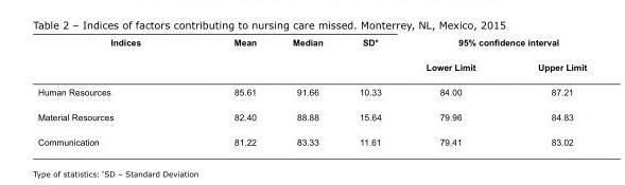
<table><tbody><tr><td>Indices</td><td>Mean</td><td>Median</td><td>SD*</td><td colspan="2">95% confidence interval</td></tr><tr><td colspan="4"></td><td>Lower Limit</td><td>Upper Limit</td></tr><tr><td>Human Resources</td><td>85.61</td><td>91.66</td><td>10.33</td><td>84.00</td><td>87.21</td></tr><tr><td>Material Resources</td><td>82.40</td><td>88.88</td><td>15.64</td><td>79.96</td><td>84.83</td></tr><tr><td>Communication</td><td>81.22</td><td>83.33</td><td>11.61</td><td>79.41</td><td>83.02</td></tr></tbody></table>